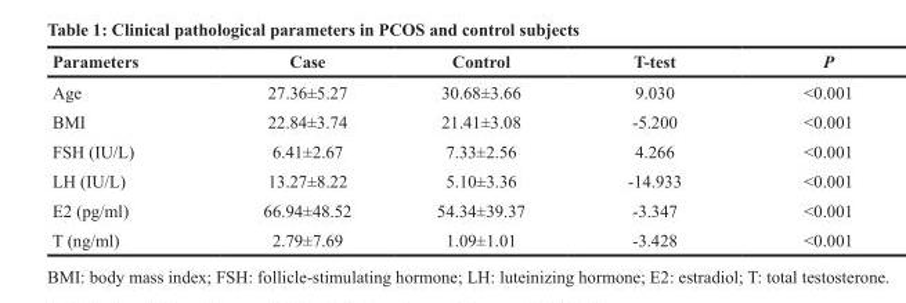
<table><thead><tr><td>Parameters</td><td>Case</td><td>Control</td><td>T-test</td><td>P</td></tr></thead><tbody><tr><td>Age</td><td>27.36±5.27</td><td>30.68±3.66</td><td>9.030</td><td>&lt;0.001</td></tr><tr><td>BMI</td><td>22.84±3.74</td><td>21.41±3.08</td><td>-5.200</td><td>&lt;0.001</td></tr><tr><td>FSH (IU/L)</td><td>6.41±2.67</td><td>7.33±2.56</td><td>4.266</td><td>&lt;0.001</td></tr><tr><td>LH (IU/L)</td><td>13.27±8.22</td><td>5.10±3.36</td><td>-14.933</td><td>&lt;0.001</td></tr><tr><td>E2 (pg/ml)</td><td>66.94±48.52</td><td>54.34±39.37</td><td>-3.347</td><td>&lt;0.001</td></tr><tr><td>T (ng/ml)</td><td>2.79±7.69</td><td>1.09±1.01</td><td>-3.428</td><td>&lt;0.001</td></tr></tbody></table>